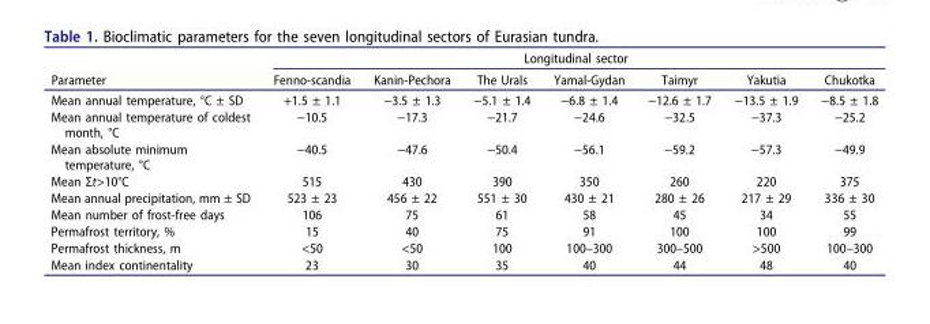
<table><thead><tr><td rowspan="2">Parameter</td><td colspan="7">Longitudinal sector</td></tr><tr><td>Fenno-scandia</td><td>Kanin-Pechora</td><td>The Urals</td><td>Yamal-Gydan</td><td>Taimyr</td><td>Yakutia</td><td>Chukotka</td></tr></thead><tbody><tr><td>Mean annual temperature, °С ± SD</td><td>+1.5 ± 1.1</td><td>−3.5 ± 1.3</td><td>−5.1 ± 1.4</td><td>−6.8 ± 1.4</td><td>−12.6 ± 1.7</td><td>−13.5 ± 1.9</td><td>−8.5 ± 1.8</td></tr><tr><td>Mean annual temperature of coldest month, °С</td><td>−10.5</td><td>−17.3</td><td>−21.7</td><td>−24.6</td><td>−32.5</td><td>−37.3</td><td>−25.2</td></tr><tr><td>Mean absolute minimum temperature, °С</td><td>−40.5</td><td>−47.6</td><td>−50.4</td><td>−56.1</td><td>−59.2</td><td>−57.3</td><td>−49.9</td></tr><tr><td>Mean Σt&gt;10°С</td><td>515</td><td>430</td><td>390</td><td>350</td><td>260</td><td>220</td><td>375</td></tr><tr><td>Mean annual precipitation, mm ± SD</td><td>523 ± 23</td><td>456 ± 22</td><td>551 ± 30</td><td>430 ± 21</td><td>280 ± 26</td><td>217 ± 29</td><td>336 ± 30</td></tr><tr><td>Mean number of frost-free days</td><td>106</td><td>75</td><td>61</td><td>58</td><td>45</td><td>34</td><td>55</td></tr><tr><td>Permafrost territory, %</td><td>15</td><td>40</td><td>75</td><td>91</td><td>100</td><td>100</td><td>99</td></tr><tr><td>Permafrost thickness, m</td><td>&lt;50</td><td>&lt;50</td><td>100</td><td>100–300</td><td>300–500</td><td>&gt;500</td><td>100–300</td></tr><tr><td>Mean index continentality</td><td>23</td><td>30</td><td>35</td><td>40</td><td>44</td><td>48</td><td>40</td></tr></tbody></table>